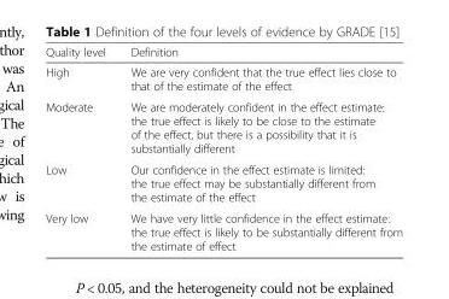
<table><thead><tr><td>Quality level</td><td>Definition</td></tr></thead><tbody><tr><td>High</td><td>We are very confident that the true effect lies close to that of the estimate of the effect</td></tr><tr><td>Moderate</td><td>We are moderately confident in the effect estimate: the true effect is likely to be close to the estimate of the effect, but there is a possibility that it is substantially different</td></tr><tr><td>Low</td><td>Our confidence in the effect estimate is limited: the true effect may be substantially different from the estimate of the effect</td></tr><tr><td>Very low</td><td>We have very little confidence in the effect estimate: the true effect is likely to be substantially different from the estimate of effect</td></tr></tbody></table>